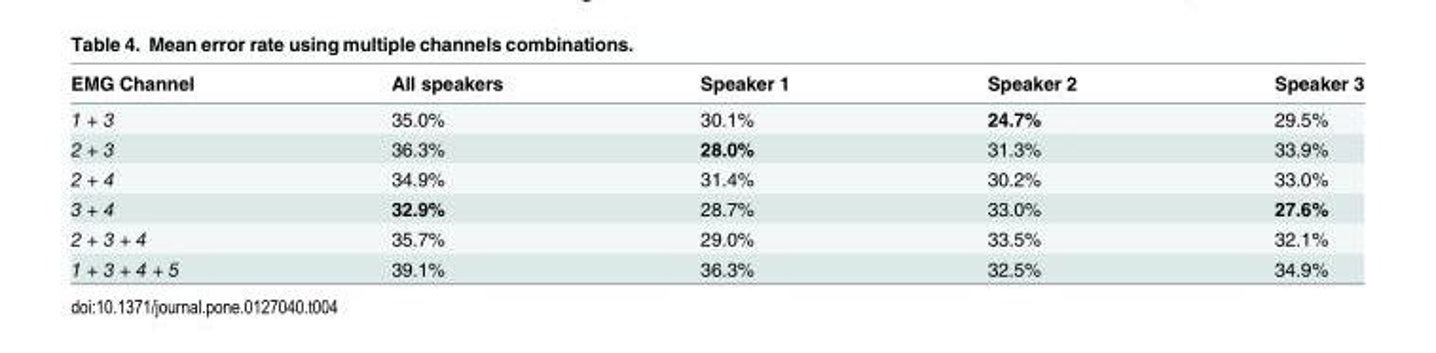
<table><thead><tr><td>EMG Channel</td><td>All speakers</td><td>Speaker 1</td><td>Speaker 2</td><td>Speaker 3</td></tr></thead><tbody><tr><td>1 + 3</td><td>35.0%</td><td>30.1%</td><td>24.7%</td><td>29.5%</td></tr><tr><td>2 + 3</td><td>36.3%</td><td>28.0%</td><td>31.3%</td><td>33.9%</td></tr><tr><td>2 + 4</td><td>34.9%</td><td>31.4%</td><td>30.2%</td><td>33.0%</td></tr><tr><td>3 + 4</td><td>32.9%</td><td>28.7%</td><td>33.0%</td><td>27.6%</td></tr><tr><td>2 + 3 + 4</td><td>35.7%</td><td>29.0%</td><td>33.5%</td><td>32.1%</td></tr><tr><td>1 + 3 + 4 + 5</td><td>39.1%</td><td>36.3%</td><td>32.5%</td><td>34.9%</td></tr></tbody></table>